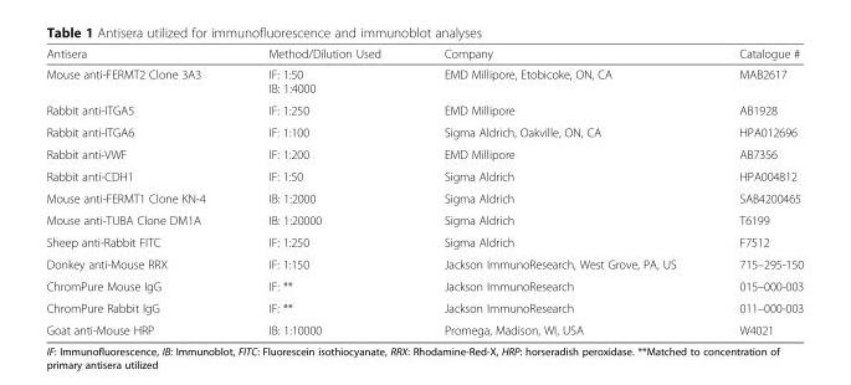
<table><thead><tr><td>Antisera</td><td>Method/Dilution Used</td><td>Company</td><td>Catalogue #</td></tr></thead><tbody><tr><td>Mouse anti-FERMT2 Clone 3A3</td><td>IF: 1:50 IB: 1:4000</td><td>EMD Millipore, Etobicoke, ON, CA</td><td>MAB2617</td></tr><tr><td>Rabbit anti-ITGA5</td><td>IF: 1:250</td><td>EMD Millipore</td><td>AB1928</td></tr><tr><td>Rabbit anti-ITGA6</td><td>IF: 1:100</td><td>Sigma Aldrich, Oakville, ON, CA</td><td>HPA012696</td></tr><tr><td>Rabbit anti-VWF</td><td>IF: 1:200</td><td>EMD Millipore</td><td>AB7356</td></tr><tr><td>Rabbit anti-CDH1</td><td>IF: 1:50</td><td>Sigma Aldrich</td><td>HPA004812</td></tr><tr><td>Mouse anti-FERMT1 Clone KN-4</td><td>IB: 1:2000</td><td>Sigma Aldrich</td><td>SAB4200465</td></tr><tr><td>Mouse anti-TUBA Clone DM1A</td><td>IB: 1:20000</td><td>Sigma Aldrich</td><td>T6199</td></tr><tr><td>Sheep anti-Rabbit FITC</td><td>IF: 1:250</td><td>Sigma Aldrich</td><td>F7512</td></tr><tr><td>Donkey anti-Mouse RRX</td><td>IF: 1:150</td><td>Jackson ImmunoResearch, West Grove, PA, US</td><td>715–295-150</td></tr><tr><td>ChromPure Mouse IgG</td><td>IF: **</td><td>Jackson ImmunoResearch</td><td>015–000-003</td></tr><tr><td>ChromPure Rabbit IgG</td><td>IF: **</td><td>Jackson ImmunoResearch</td><td>011–000-003</td></tr><tr><td>Goat anti-Mouse HRP</td><td>IB: 1:10000</td><td>Promega, Madison, WI, USA</td><td>W4021</td></tr></tbody></table>